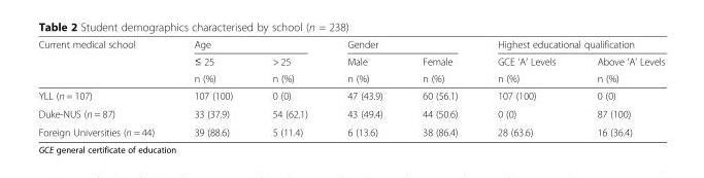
<table><thead><tr><td rowspan="3">Current medical school</td><td colspan="2">Age</td><td colspan="2">Gender</td><td colspan="2">Highest educational qualification</td></tr><tr><td rowspan="2">≤ 25 n (%)</td><td rowspan="2">&gt; 25 n (%)</td><td rowspan="2">Male n (%)</td><td rowspan="2">Female n (%)</td><td rowspan="2">GCE ‘A’ Levels n (%)</td><td rowspan="2">Above ‘A’ Levels n (%)</td></tr><tr></tr></thead><tbody><tr><td>YLL (n = 107)</td><td>107 (100)</td><td>0 (0)</td><td>47 (43.9)</td><td>60 (56.1)</td><td>107 (100)</td><td>0 (0)</td></tr><tr><td>Duke-NUS (n = 87)</td><td>33 (37.9)</td><td>54 (62.1)</td><td>43 (49.4)</td><td>44 (50.6)</td><td>0 (0)</td><td>87 (100)</td></tr><tr><td>Foreign Universities (n = 44)</td><td>39 (88.6)</td><td>5 (11.4)</td><td>6 (13.6)</td><td>38 (86.4)</td><td>28 (63.6)</td><td>16 (36.4)</td></tr></tbody></table>